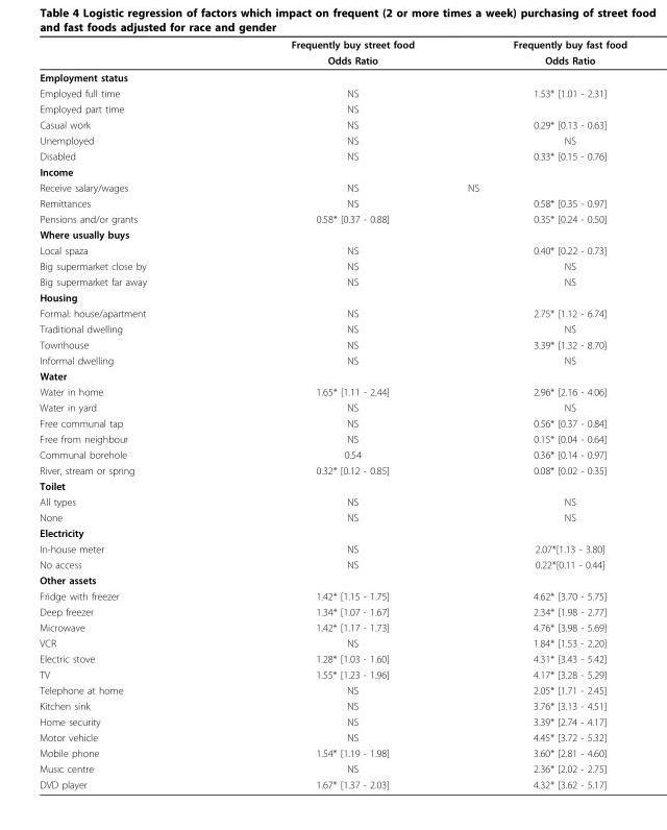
<table><thead><tr><td rowspan="2"></td><td rowspan="2">Frequently buy street food Odds Ratio</td><td rowspan="2">Frequently buy fast food Odds Ratio</td></tr><tr></tr></thead><tbody><tr><td colspan="3">Employment status</td></tr><tr><td>Employed full time</td><td>NS</td><td>1.53* [1.01 - 2.31]</td></tr><tr><td>Employed part time</td><td>NS</td><td></td></tr><tr><td>Casual work</td><td>NS</td><td>0.29* [0.13 - 0.63]</td></tr><tr><td>Unemployed</td><td>NS</td><td>NS</td></tr><tr><td>Disabled</td><td>NS</td><td>0.33* [0.15 - 0.76]</td></tr><tr><td colspan="3">Income</td></tr><tr><td>Receive salary/wages</td><td>NS</td><td>NS</td></tr><tr><td>Remittances</td><td>NS</td><td>0.58* [0.35 - 0.97]</td></tr><tr><td>Pensions and/or grants</td><td>0.58* [0.37 - 0.88]</td><td>0.35* [0.24 - 0.50]</td></tr><tr><td colspan="3">Where usually buys</td></tr><tr><td>Local spaza</td><td>NS</td><td>0.40* [0.22 - 0.73]</td></tr><tr><td>Big supermarket close by</td><td>NS</td><td>NS</td></tr><tr><td>Big supermarket far away</td><td>NS</td><td>NS</td></tr><tr><td colspan="3">Housing</td></tr><tr><td>Formal: house/apartment</td><td>NS</td><td>2.75* [1.12 - 6.74]</td></tr><tr><td>Traditional dwelling</td><td>NS</td><td>NS</td></tr><tr><td>Townhouse</td><td>NS</td><td>3.39* [1.32 - 8.70]</td></tr><tr><td>Informal dwelling</td><td>NS</td><td>NS</td></tr><tr><td colspan="3">Water</td></tr><tr><td>Water in home</td><td>1.65* [1.11 - 2.44]</td><td>2.96* [2.16 - 4.06]</td></tr><tr><td>Water in yard</td><td>NS</td><td>NS</td></tr><tr><td>Free communal tap</td><td>NS</td><td>0.56* [0.37 - 0.84]</td></tr><tr><td>Free from neighbour</td><td>NS</td><td>0.15* [0.04 - 0.64]</td></tr><tr><td>Communal borehole</td><td>0.54</td><td>0.36* [0.14 - 0.97]</td></tr><tr><td>River, stream or spring</td><td>0.32* [0.12 - 0.85]</td><td>0.08* [0.02 - 0.35]</td></tr><tr><td colspan="3">Toilet</td></tr><tr><td>All types</td><td>NS</td><td>NS</td></tr><tr><td>None</td><td>NS</td><td>NS</td></tr><tr><td colspan="3">Electricity</td></tr><tr><td>In-house meter</td><td>NS</td><td>2.07*[1.13 - 3.80]</td></tr><tr><td>No access</td><td>NS</td><td>0.22*[0.11 - 0.44]</td></tr><tr><td colspan="3">Other assets</td></tr><tr><td>Fridge with freezer</td><td>1.42* [1.15 - 1.75]</td><td>4.62* [3.70 - 5.75]</td></tr><tr><td>Deep freezer</td><td>1.34* [1.07 - 1.67]</td><td>2.34* [1.98 - 2.77]</td></tr><tr><td>Microwave</td><td>1.42* [1.17 - 1.73]</td><td>4.76* [3.98 - 5.69]</td></tr><tr><td>VCR</td><td>NS</td><td>1.84* [1.53 - 2.20]</td></tr><tr><td>Electric stove</td><td>1.28* [1.03 - 1.60]</td><td>4.31* [3.43 - 5.42]</td></tr><tr><td>TV</td><td>1.55* [1.23 - 1.96]</td><td>4.17* [3.28 - 5.29]</td></tr><tr><td>Telephone at home</td><td>NS</td><td>2.05* [1.71 - 2.45]</td></tr><tr><td>Kitchen sink</td><td>NS</td><td>3.76* [3.13 - 4.51]</td></tr><tr><td>Home security</td><td>NS</td><td>3.39* [2.74 - 4.17]</td></tr><tr><td>Motor vehicle</td><td>NS</td><td>4.45* [3.72 - 5.32]</td></tr><tr><td>Mobile phone</td><td>1.54* [1.19 - 1.98]</td><td>3.60* [2.81 - 4.60]</td></tr><tr><td>Music centre</td><td>NS</td><td>2.36* [2.02 - 2.75]</td></tr><tr><td>DVD player</td><td>1.67* [1.37 - 2.03]</td><td>4.32* [3.62 - 5.17]</td></tr></tbody></table>